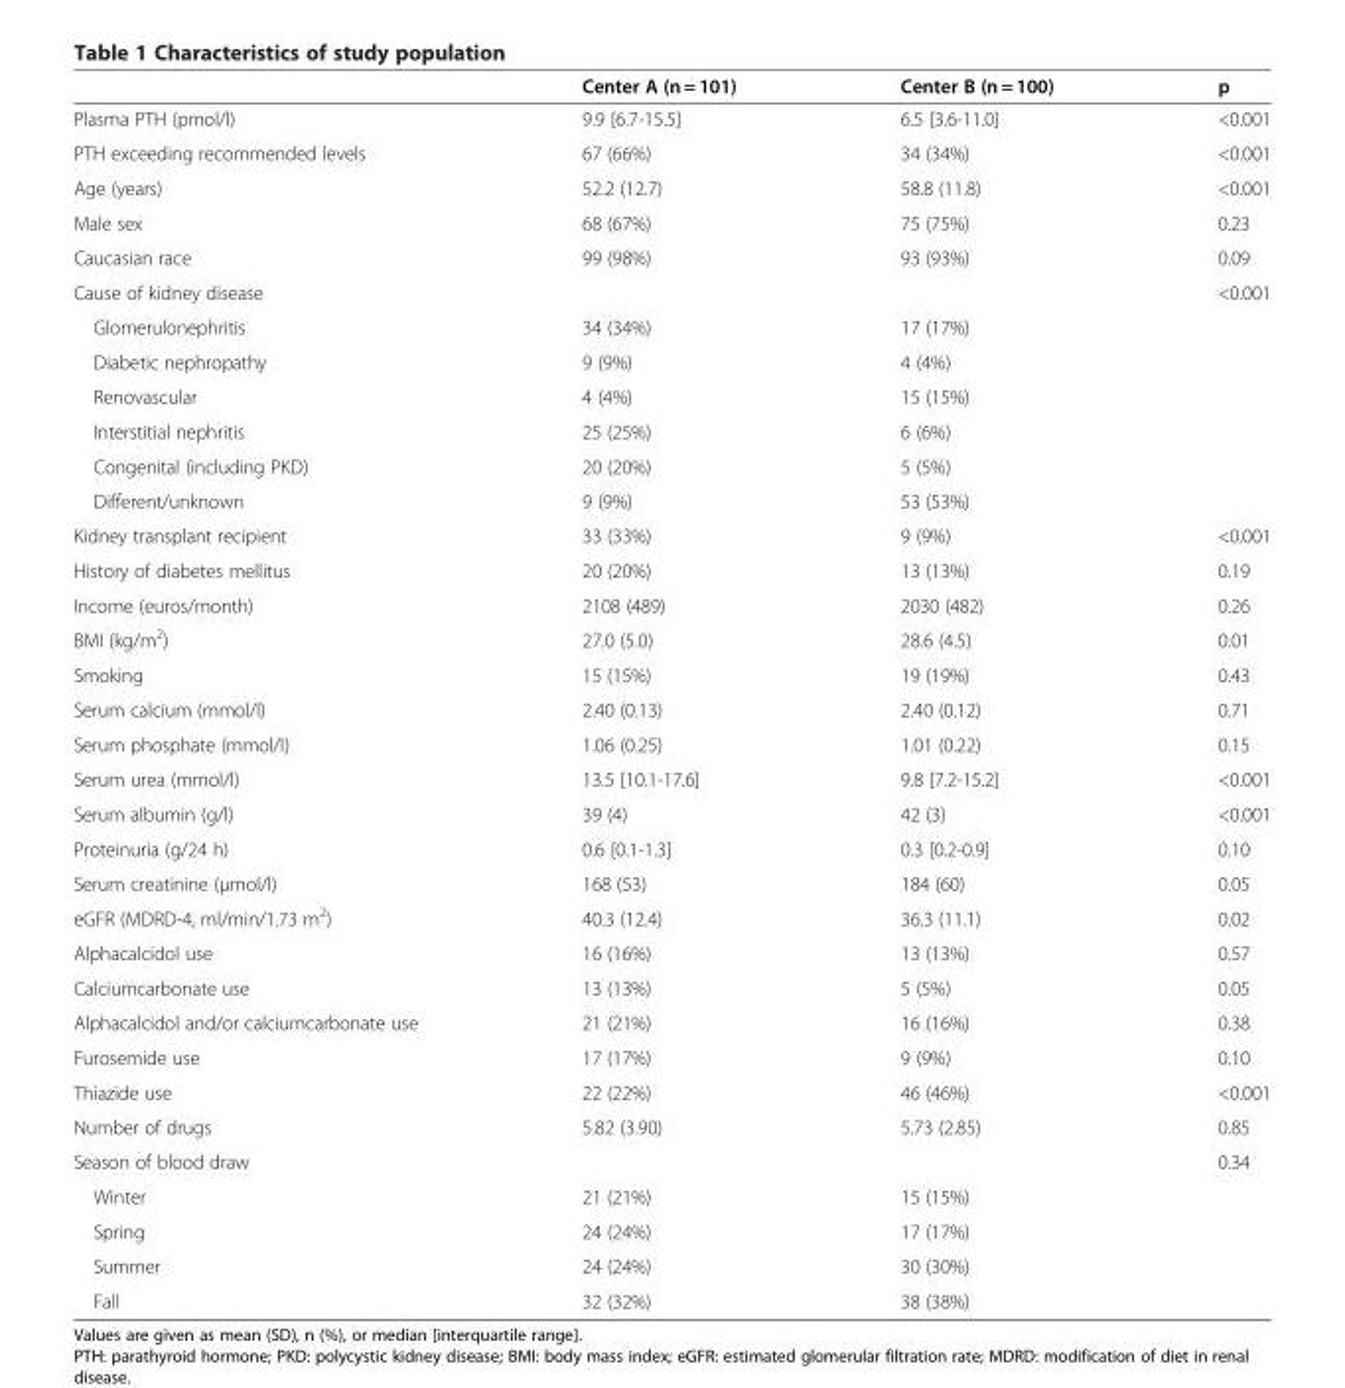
<table><thead><tr><td></td><td>Center A (n = 101)</td><td>Center B (n = 100)</td><td>p</td></tr></thead><tbody><tr><td>Plasma PTH (pmol/l)</td><td>9.9 [6.7-15.5]</td><td>6.5 [3.6-11.0]</td><td>&lt;0.001</td></tr><tr><td>PTH exceeding recommended levels</td><td>67 (66%)</td><td>34 (34%)</td><td>&lt;0.001</td></tr><tr><td>Age (years)</td><td>52.2 (12.7)</td><td>58.8 (11.8)</td><td>&lt;0.001</td></tr><tr><td>Male sex</td><td>68 (67%)</td><td>75 (75%)</td><td>0.23</td></tr><tr><td>Caucasian race</td><td>99 (98%)</td><td>93 (93%)</td><td>0.09</td></tr><tr><td>Cause of kidney disease</td><td></td><td></td><td>&lt;0.001</td></tr><tr><td>Glomerulonephritis</td><td>34 (34%)</td><td>17 (17%)</td><td></td></tr><tr><td>Diabetic nephropathy</td><td>9 (9%)</td><td>4 (4%)</td><td></td></tr><tr><td>Renovascular</td><td>4 (4%)</td><td>15 (15%)</td><td></td></tr><tr><td>Interstitial nephritis</td><td>25 (25%)</td><td>6 (6%)</td><td></td></tr><tr><td>Congenital (including PKD)</td><td>20 (20%)</td><td>5 (5%)</td><td></td></tr><tr><td>Different/unknown</td><td>9 (9%)</td><td>53 (53%)</td><td></td></tr><tr><td>Kidney transplant recipient</td><td>33 (33%)</td><td>9 (9%)</td><td>&lt;0.001</td></tr><tr><td>History of diabetes mellitus</td><td>20 (20%)</td><td>13 (13%)</td><td>0.19</td></tr><tr><td>Income (euros/month)</td><td>2108 (489)</td><td>2030 (482)</td><td>0.26</td></tr><tr><td>BMI (kg/m<sup>2</sup>)</td><td>27.0 (5.0)</td><td>28.6 (4.5)</td><td>0.01</td></tr><tr><td>Smoking</td><td>15 (15%)</td><td>19 (19%)</td><td>0.43</td></tr><tr><td>Serum calcium (mmol/l)</td><td>2.40 (0.13)</td><td>2.40 (0.12)</td><td>0.71</td></tr><tr><td>Serum phosphate (mmol/l)</td><td>1.06 (0.25)</td><td>1.01 (0.22)</td><td>0.15</td></tr><tr><td>Serum urea (mmol/l)</td><td>13.5 [10.1-17.6]</td><td>9.8 [7.2-15.2]</td><td>&lt;0.001</td></tr><tr><td>Serum albumin (g/l)</td><td>39 (4)</td><td>42 (3)</td><td>&lt;0.001</td></tr><tr><td>Proteinuria (g/24 h)</td><td>0.6 [0.1-1.3]</td><td>0.3 [0.2-0.9]</td><td>0.10</td></tr><tr><td>Serum creatinine (μmol/l)</td><td>168 (53)</td><td>184 (60)</td><td>0.05</td></tr><tr><td>eGFR (MDRD-4, ml/min/1.73 m<sup>2</sup>)</td><td>40.3 (12.4)</td><td>36.3 (11.1)</td><td>0.02</td></tr><tr><td>Alphacalcidol use</td><td>16 (16%)</td><td>13 (13%)</td><td>0.57</td></tr><tr><td>Calciumcarbonate use</td><td>13 (13%)</td><td>5 (5%)</td><td>0.05</td></tr><tr><td>Alphacalcidol and/or calciumcarbonate use</td><td>21 (21%)</td><td>16 (16%)</td><td>0.38</td></tr><tr><td>Furosemide use</td><td>17 (17%)</td><td>9 (9%)</td><td>0.10</td></tr><tr><td>Thiazide use</td><td>22 (22%)</td><td>46 (46%)</td><td>&lt;0.001</td></tr><tr><td>Number of drugs</td><td>5.82 (3.90)</td><td>5.73 (2.85)</td><td>0.85</td></tr><tr><td>Season of blood draw</td><td></td><td></td><td>0.34</td></tr><tr><td>Winter</td><td>21 (21%)</td><td>15 (15%)</td><td></td></tr><tr><td>Spring</td><td>24 (24%)</td><td>17 (17%)</td><td></td></tr><tr><td>Summer</td><td>24 (24%)</td><td>30 (30%)</td><td></td></tr><tr><td>Fall</td><td>32 (32%)</td><td>38 (38%)</td><td></td></tr></tbody></table>